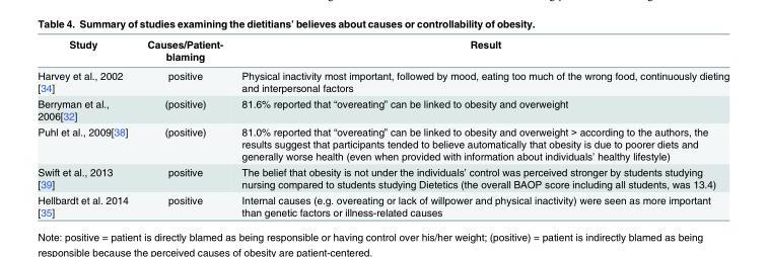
<table><thead><tr><td>Study</td><td>Causes/Patient- blaming</td><td>Result</td></tr></thead><tbody><tr><td>Harvey et al., 2002 [34]</td><td>positive</td><td>Physical inactivity most important, followed by mood, eating too much of the wrong food, continuously dieting and interpersonal factors</td></tr><tr><td>Berryman et al., 2006[32]</td><td>(positive)</td><td>81.6% reported that “overeating” can be linked to obesity and overweight</td></tr><tr><td>Puhl et al., 2009[38]</td><td>(positive)</td><td>81.0% reported that “overeating” can be linked to obesity and overweight &gt; according to the authors, the results suggest that participants tended to believe automatically that obesity is due to poorer diets and generally worse health (even when provided with information about individuals’ healthy lifestyle)</td></tr><tr><td>Swift et al., 2013 [39]</td><td>positive</td><td>The belief that obesity is not under the individuals’ control was perceived stronger by students studying nursing compared to students studying Dietetics (the overall BAOP score including all students, was 13.4)</td></tr><tr><td>Hellbardt et al. 2014 [35]</td><td>positive</td><td>Internal causes (e.g. overeating or lack of willpower and physical inactivity) were seen as more important than genetic factors or illness-related causes</td></tr></tbody></table>